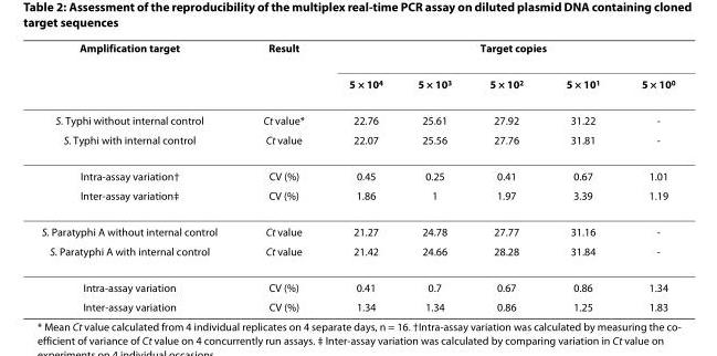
<table><thead><tr><td rowspan="2">Amplification target</td><td rowspan="2">Result</td><td colspan="5">Target copies</td></tr><tr><td>5 × 104</td><td>5 × 103</td><td>5 × 102</td><td>5 × 101</td><td>5 × 100</td></tr></thead><tbody><tr><td>S. Typhi without internal control</td><td>Ct value*</td><td>22.76</td><td>25.61</td><td>27.92</td><td>31.22</td><td>-</td></tr><tr><td>S. Typhi with internal control</td><td>Ct value</td><td>22.07</td><td>25.56</td><td>27.76</td><td>31.81</td><td>-</td></tr><tr><td>Intra-assay variation†</td><td>CV (%)</td><td>0.45</td><td>0.25</td><td>0.41</td><td>0.67</td><td>1.01</td></tr><tr><td>Inter-assay variation‡</td><td>CV (%)</td><td>1.86</td><td>1</td><td>1.97</td><td>3.39</td><td>1.19</td></tr><tr><td>S. Paratyphi A without internal control</td><td>Ct value</td><td>21.27</td><td>24.78</td><td>27.77</td><td>31.16</td><td>-</td></tr><tr><td>S. Paratyphi A with internal control</td><td>Ct value</td><td>21.42</td><td>24.66</td><td>28.28</td><td>31.84</td><td>-</td></tr><tr><td>Intra-assay variation</td><td>CV (%)</td><td>0.41</td><td>0.7</td><td>0.67</td><td>0.86</td><td>1.34</td></tr><tr><td>Inter-assay variation</td><td>CV (%)</td><td>1.34</td><td>1.34</td><td>0.86</td><td>1.25</td><td>1.83</td></tr></tbody></table>